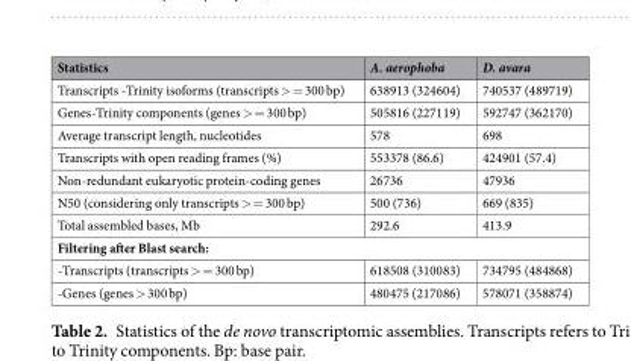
<table><thead><tr><td>Statistics</td><td>A. aerophoba</td><td>D. avara</td></tr></thead><tbody><tr><td>Transcripts -Trinity isoforms (transcripts &gt; = 300 bp)</td><td>638913 (324604)</td><td>740537 (489719)</td></tr><tr><td>Genes-Trinity components (genes &gt; = 300 bp)</td><td>505816 (227119)</td><td>592747 (362170)</td></tr><tr><td>Average transcript length, nucleotides</td><td>578</td><td>698</td></tr><tr><td>Transcripts with open reading frames (%)</td><td>553378 (86.6)</td><td>424901 (57.4)</td></tr><tr><td>Non-redundant eukaryotic protein-coding genes</td><td>26736</td><td>47936</td></tr><tr><td>N50 (considering only transcripts &gt; = 300 bp)</td><td>500 (736)</td><td>669 (835)</td></tr><tr><td>Total assembled bases, Mb</td><td>292.6</td><td>413.9</td></tr><tr><td colspan="3">Filtering after Blast search:</td></tr><tr><td>-Transcripts (transcripts &gt; = 300 bp)</td><td>618508 (310083)</td><td>734795 (484868)</td></tr><tr><td>-Genes (genes &gt; 300 bp)</td><td>480475 (217086)</td><td>578071 (358874)</td></tr></tbody></table>